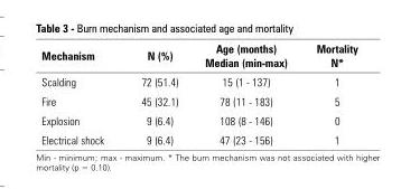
<table><thead><tr><td>Mechanism</td><td>N (%)</td><td>Age (months) Median (min-max)</td><td>Mortality N*</td></tr></thead><tbody><tr><td>Scalding</td><td>72 (51.4)</td><td>15 (1 - 137)</td><td>1</td></tr><tr><td>Fire</td><td>45 (32.1)</td><td>78 (11 - 183)</td><td>5</td></tr><tr><td>Explosion</td><td>9 (6.4)</td><td>108 (8 - 146)</td><td>0</td></tr><tr><td>Electrical shock</td><td>9 (6.4)</td><td>47 (23 - 156)</td><td>1</td></tr></tbody></table>